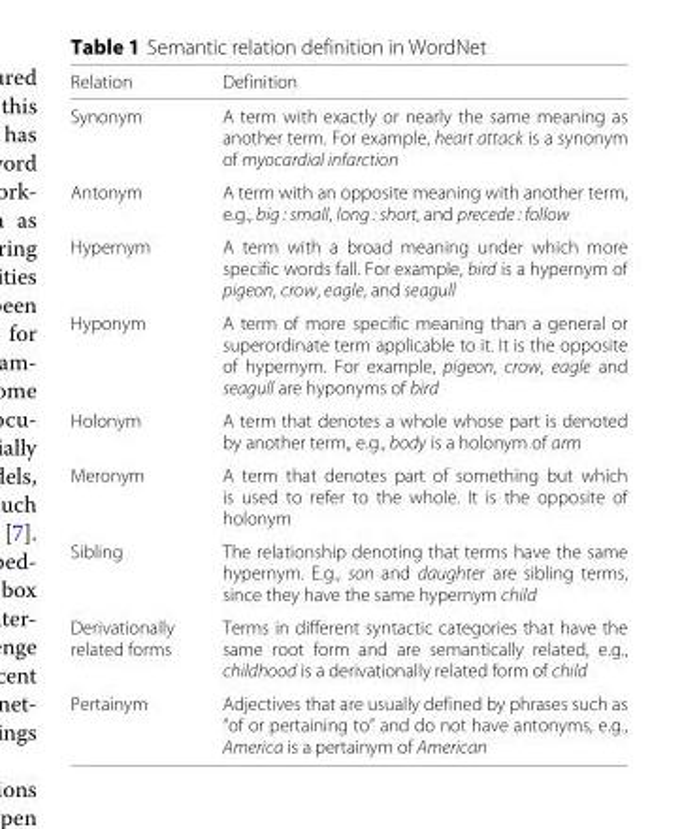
<table><thead><tr><td>Relation</td><td>Definition</td></tr></thead><tbody><tr><td>Synonym</td><td>A term with exactly or nearly the same meaning as another term. For example, heart attack is a synonym of myocardial infarction</td></tr><tr><td>Antonym</td><td>A term with an opposite meaning with another term, e.g., big : small, long : short, and precede : follow</td></tr><tr><td>Hypernym</td><td>A term with a broad meaning under which more specific words fall. For example, bird is a hypernym of pigeon, crow, eagle, and seagull</td></tr><tr><td>Hyponym</td><td>A term of more specific meaning than a general or superordinate term applicable to it. It is the opposite of hypernym. For example, pigeon, crow, eagle and seagull are hyponyms of bird</td></tr><tr><td>Holonym</td><td>A term that denotes a whole whose part is denoted by another term„ e.g., body is a holonym of arm</td></tr><tr><td>Meronym</td><td>A term that denotes part of something but which is used to refer to the whole. It is the opposite of holonym</td></tr><tr><td>Sibling</td><td>The relationship denoting that terms have the same hypernym. E.g., son and daughter are sibling terms, since they have the same hypernym child</td></tr><tr><td>Derivationally related forms</td><td>Terms in different syntactic categories that have the same root form and are semantically related, e.g., childhood is a derivationally related form of child</td></tr><tr><td>Pertainym</td><td>Adjectives that are usually defined by phrases such as “of or pertaining to” and do not have antonyms, e.g., America is a pertainym of American</td></tr></tbody></table>